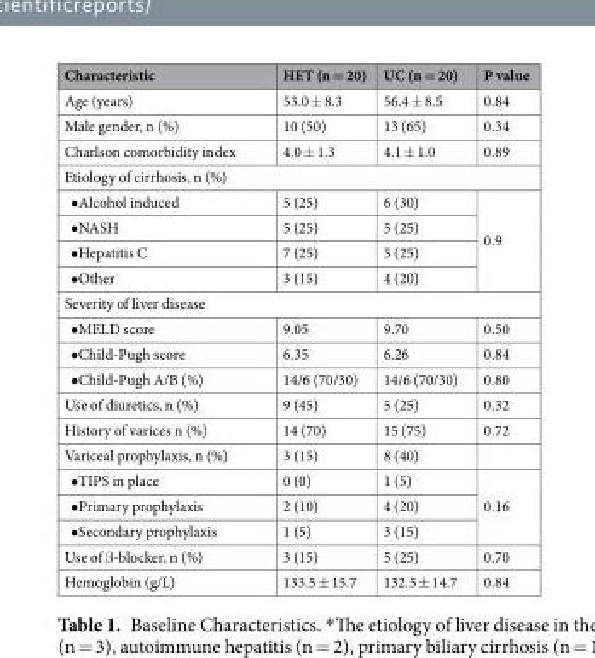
<table><thead><tr><td>Characteristic</td><td>HET (n = 20)</td><td>UC (n = 20)</td><td>P value</td></tr></thead><tbody><tr><td>Age (years)</td><td>53.0 ± 8.3</td><td>56.4 ± 8.5</td><td>0.84</td></tr><tr><td>Male gender, n (%)</td><td>10 (50)</td><td>13 (65)</td><td>0.34</td></tr><tr><td>Charlson comorbidity index</td><td>4.0 ± 1.3</td><td>4.1 ± 1.0</td><td>0.89</td></tr><tr><td colspan="4">Etiology of cirrhosis, n (%)</td></tr><tr><td>•Alcohol induced</td><td>5 (25)</td><td>6 (30)</td><td rowspan="4">0.9</td></tr><tr><td>•NASH</td><td>5 (25)</td><td>5 (25)</td></tr><tr><td>•Hepatitis C</td><td>7 (25)</td><td>5 (25)</td></tr><tr><td>•Other</td><td>3 (15)</td><td>4 (20)</td></tr><tr><td colspan="4">Severity of liver disease</td></tr><tr><td>•MELD score</td><td>9.05</td><td>9.70</td><td>0.50</td></tr><tr><td>•Child-Pugh score</td><td>6.35</td><td>6.26</td><td>0.84</td></tr><tr><td>•Child-Pugh A/B (%)</td><td>14/6 (70/30)</td><td>14/6 (70/30)</td><td>0.80</td></tr><tr><td>Use of diuretics, n (%)</td><td>9 (45)</td><td>5 (25)</td><td>0.32</td></tr><tr><td>History of varices n (%)</td><td>14 (70)</td><td>15 (75)</td><td>0.72</td></tr><tr><td>Variceal prophylaxis, n (%)</td><td>3 (15)</td><td>8 (40)</td><td></td></tr><tr><td>•TIPS in place</td><td>0 (0)</td><td>1 (5)</td><td rowspan="3">0.16</td></tr><tr><td>•Primary prophylaxis</td><td>2 (10)</td><td>4 (20)</td></tr><tr><td>•Secondary prophylaxis</td><td>1 (5)</td><td>3 (15)</td></tr><tr><td>Use of β-blocker, n (%)</td><td>3 (15)</td><td>5 (25)</td><td>0.70</td></tr><tr><td>Hemoglobin (g/L)</td><td>133.5 ± 15.7</td><td>132.5 ± 14.7</td><td>0.84</td></tr></tbody></table>